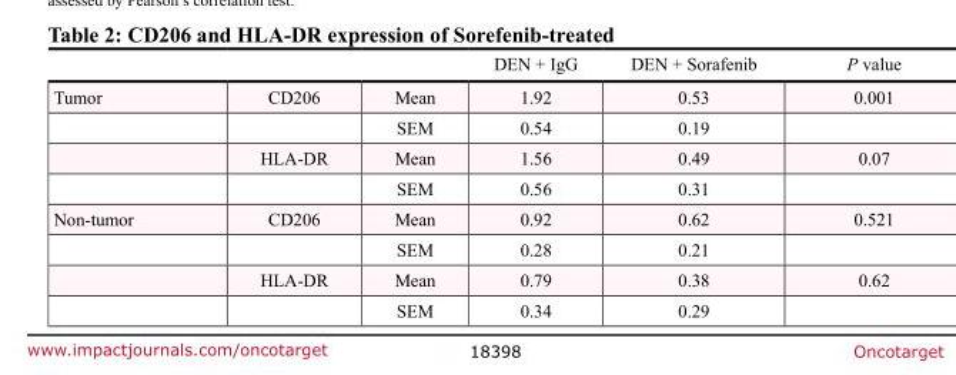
<table><thead><tr><td></td><td></td><td></td><td>DEN + IgG</td><td>DEN + Sorafenib</td><td>P value</td></tr></thead><tbody><tr><td rowspan="4">Tumor</td><td>CD206</td><td>Mean</td><td>1.92</td><td>0.53</td><td>0.001</td></tr><tr><td></td><td>SEM</td><td>0.54</td><td>0.19</td><td></td></tr><tr><td>HLA-DR</td><td>Mean</td><td>1.56</td><td>0.49</td><td>0.07</td></tr><tr><td></td><td>SEM</td><td>0.56</td><td>0.31</td><td></td></tr><tr><td rowspan="4">Non-tumor</td><td>CD206</td><td>Mean</td><td>0.92</td><td>0.62</td><td>0.521</td></tr><tr><td></td><td>SEM</td><td>0.28</td><td>0.21</td><td></td></tr><tr><td>HLA-DR</td><td>Mean</td><td>0.79</td><td>0.38</td><td>0.62</td></tr><tr><td></td><td>SEM</td><td>0.34</td><td>0.29</td><td></td></tr></tbody></table>